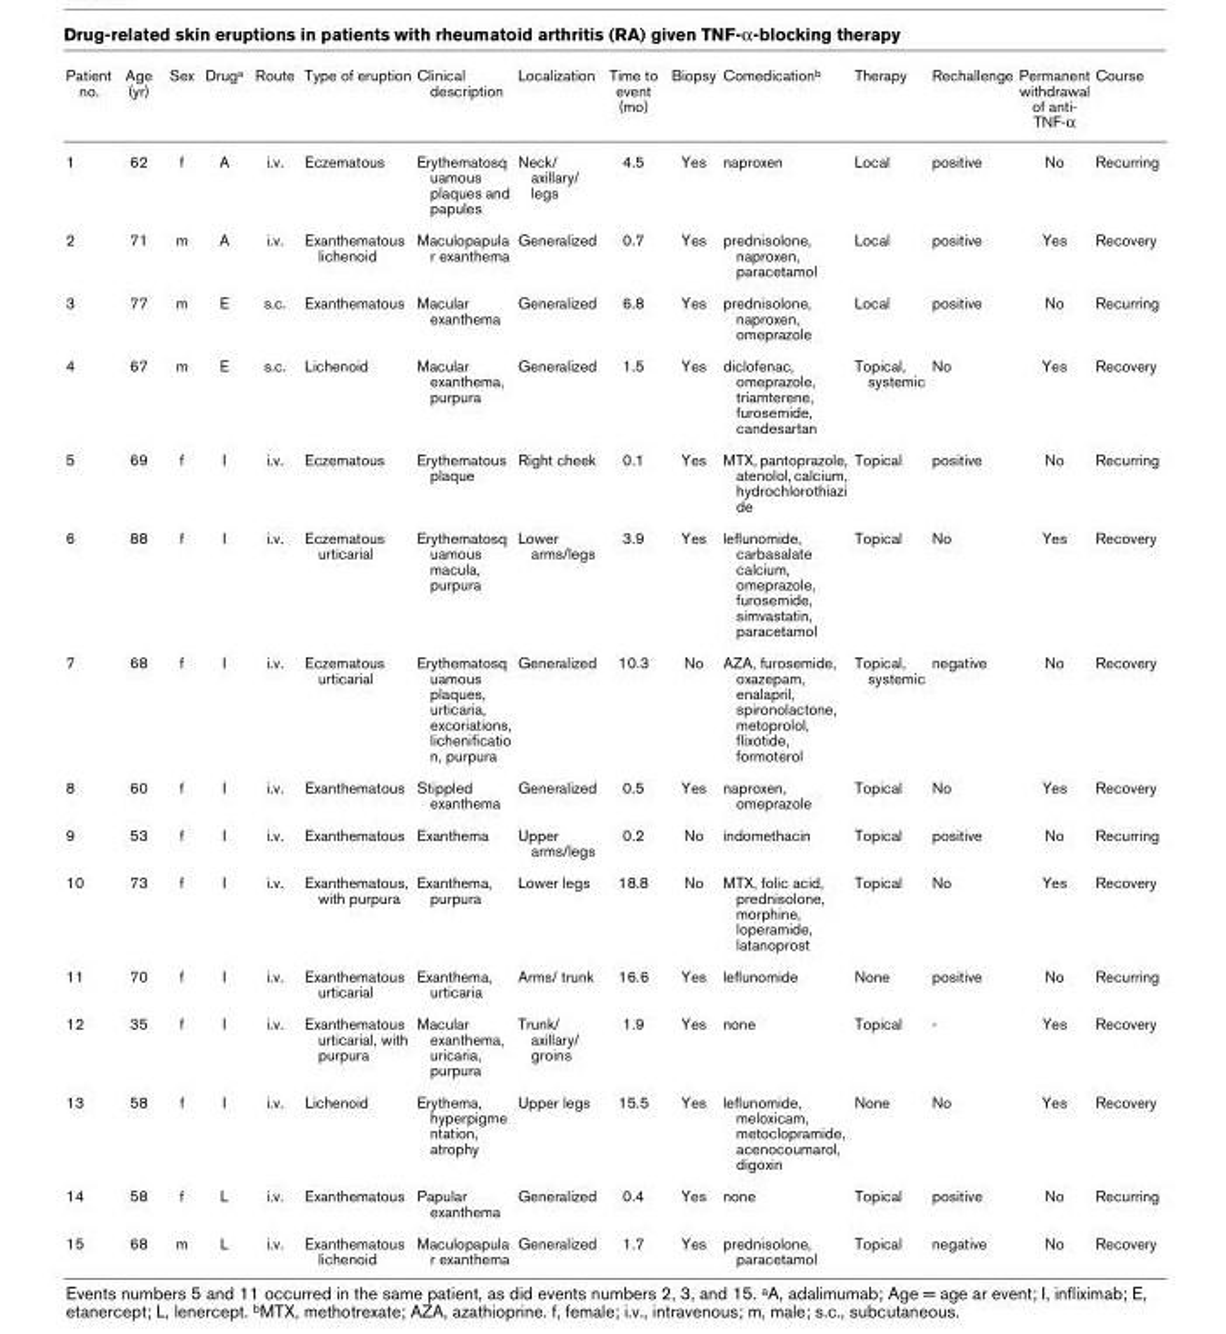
<table><thead><tr><td>Patient no.</td><td>Age (yr)</td><td>Sex</td><td>Druga</td><td>Route</td><td>Type of eruption</td><td>Clinical description</td><td>Localization</td><td>Time to event (mo)</td><td>Biopsy</td><td>Comedicationb</td><td>Therapy</td><td>Rechallenge</td><td>Permanent withdrawal of anti- TNF-α</td><td>Course</td></tr></thead><tbody><tr><td>1</td><td>62</td><td>f</td><td>A</td><td>i.v.</td><td>Eczematous</td><td>Erythematosq uamous plaques and papules</td><td>Neck/ axillary/ legs</td><td>4.5</td><td>Yes</td><td>naproxen</td><td>Local</td><td>positive</td><td>No</td><td>Recurring</td></tr><tr><td>2</td><td>71</td><td>m</td><td>A</td><td>i.v.</td><td>Exanthematous lichenoid</td><td>Maculopapula r exanthema</td><td>Generalized</td><td>0.7</td><td>Yes</td><td>prednisolone, naproxen, paracetamol</td><td>Local</td><td>positive</td><td>Yes</td><td>Recovery</td></tr><tr><td>3</td><td>77</td><td>m</td><td>E</td><td>s.c.</td><td>Exanthematous</td><td>Macular exanthema</td><td>Generalized</td><td>6.8</td><td>Yes</td><td>prednisolone, naproxen, omeprazole</td><td>Local</td><td>positive</td><td>No</td><td>Recurring</td></tr><tr><td>4</td><td>67</td><td>m</td><td>E</td><td>s.c.</td><td>Lichenoid</td><td>Macular exanthema, purpura</td><td>Generalized</td><td>1.5</td><td>Yes</td><td>diclofenac, omeprazole, triamterene, furosemide, candesartan</td><td>Topical, systemic</td><td>No</td><td>Yes</td><td>Recovery</td></tr><tr><td>5</td><td>69</td><td>f</td><td>I</td><td>i.v.</td><td>Eczematous</td><td>Erythematous plaque</td><td>Right cheek</td><td>0.1</td><td>Yes</td><td>MTX, pantoprazole, atenolol, calcium, hydrochlorothiazi de</td><td>Topical</td><td>positive</td><td>No</td><td>Recurring</td></tr><tr><td>6</td><td>88</td><td>f</td><td>I</td><td>i.v.</td><td>Eczematous urticarial</td><td>Erythematosq uamous macula, purpura</td><td>Lower arms/legs</td><td>3.9</td><td>Yes</td><td>leflunomide, carbasalate calcium, omeprazole, furosemide, simvastatin, paracetamol</td><td>Topical</td><td>No</td><td>Yes</td><td>Recovery</td></tr><tr><td>7</td><td>68</td><td>f</td><td>I</td><td>i.v.</td><td>Eczematous urticarial</td><td>Erythematosq uamous plaques, urticaria, excoriations, lichenificatio n, purpura</td><td>Generalized</td><td>10.3</td><td>No</td><td>AZA, furosemide, oxazepam, enalapril, spironolactone, metoprolol, flixotide, formoterol</td><td>Topical, systemic</td><td>negative</td><td>No</td><td>Recovery</td></tr><tr><td>8</td><td>60</td><td>f</td><td>I</td><td>i.v.</td><td>Exanthematous</td><td>Stippled exanthema</td><td>Generalized</td><td>0.5</td><td>Yes</td><td>naproxen, omeprazole</td><td>Topical</td><td>No</td><td>Yes</td><td>Recovery</td></tr><tr><td>9</td><td>53</td><td>f</td><td>I</td><td>i.v.</td><td>Exanthematous</td><td>Exanthema</td><td>Upper arms/legs</td><td>0.2</td><td>No</td><td>indomethacin</td><td>Topical</td><td>positive</td><td>No</td><td>Recurring</td></tr><tr><td>10</td><td>73</td><td>f</td><td>I</td><td>i.v.</td><td>Exanthematous, with purpura</td><td>Exanthema, purpura</td><td>Lower legs</td><td>18.8</td><td>No</td><td>MTX, folic acid, prednisolone, morphine, loperamide, latanoprost</td><td>Topical</td><td>No</td><td>Yes</td><td>Recovery</td></tr><tr><td>11</td><td>70</td><td>f</td><td>I</td><td>i.v.</td><td>Exanthematous urticarial</td><td>Exanthema, urticaria</td><td>Arms/ trunk</td><td>16.6</td><td>Yes</td><td>leflunomide</td><td>None</td><td>positive</td><td>No</td><td>Recurring</td></tr><tr><td>12</td><td>35</td><td>f</td><td>I</td><td>i.v.</td><td>Exanthematous urticarial, with purpura</td><td>Macular exanthema, uricaria, purpura</td><td>Trunk/ axillary/ groins</td><td>1.9</td><td>Yes</td><td>none</td><td>Topical</td><td>-</td><td>Yes</td><td>Recovery</td></tr><tr><td>13</td><td>58</td><td>f</td><td>I</td><td>i.v.</td><td>Lichenoid</td><td>Erythema, hyperpigme ntation, atrophy</td><td>Upper legs</td><td>15.5</td><td>Yes</td><td>leflunomide, meloxicam, metoclopramide, acenocoumarol, digoxin</td><td>None</td><td>No</td><td>Yes</td><td>Recovery</td></tr><tr><td>14</td><td>58</td><td>f</td><td>L</td><td>i.v.</td><td>Exanthematous</td><td>Papular exanthema</td><td>Generalized</td><td>0.4</td><td>Yes</td><td>none</td><td>Topical</td><td>positive</td><td>No</td><td>Recurring</td></tr><tr><td>15</td><td>68</td><td>m</td><td>L</td><td>i.v.</td><td>Exanthematous lichenoid</td><td>Maculopapula r exanthema</td><td>Generalized</td><td>1.7</td><td>Yes</td><td>prednisolone, paracetamol</td><td>Topical</td><td>negative</td><td>No</td><td>Recovery</td></tr></tbody></table>